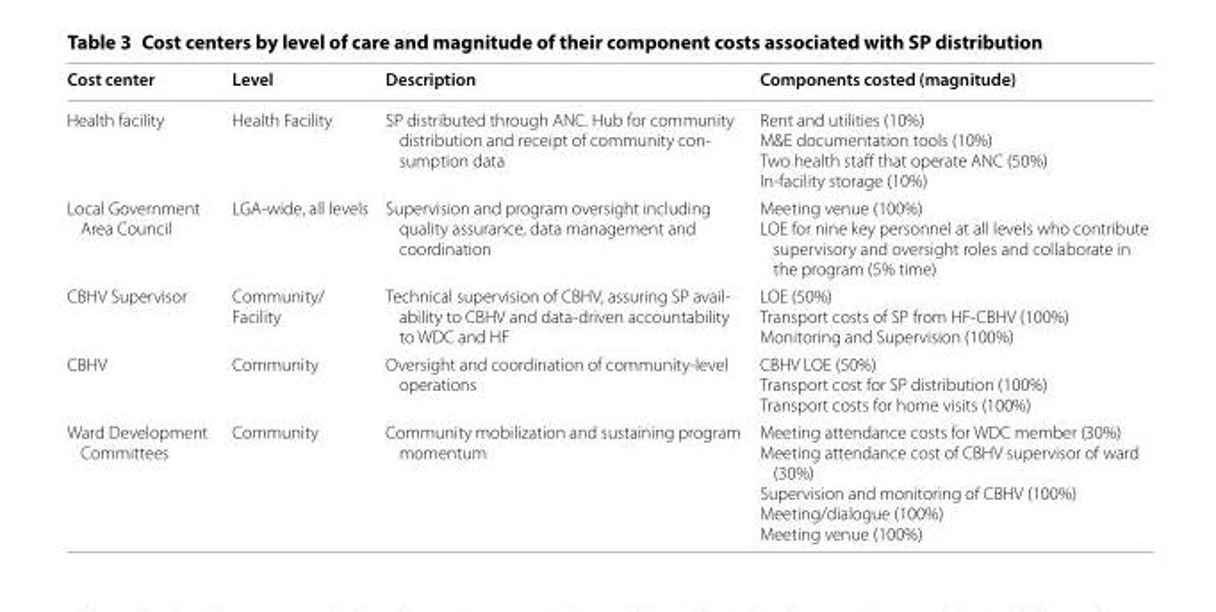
<table><thead><tr><td>Cost center</td><td>Level</td><td>Description</td><td>Components costed (magnitude)</td></tr></thead><tbody><tr><td>Health facility</td><td>Health Facility</td><td>SP distributed through ANC. Hub for community distribution and receipt of community con‑ sumption data</td><td>Rent and utilities (10%) M&amp;E documentation tools (10%) Two health staff that operate ANC (50%) In‑facility storage (10%)</td></tr><tr><td>Local Government Area Council</td><td>LGA‑wide, all levels</td><td>Supervision and program oversight including quality assurance, data management and coordination</td><td>Meeting venue (100%) LOE for nine key personnel at all levels who contribute supervisory and oversight roles and collaborate in the program (5% time)</td></tr><tr><td>CBHV Supervisor</td><td>Community/ Facility</td><td>Technical supervision of CBHV, assuring SP avail‑ ability to CBHV and data‑driven accountability to WDC and HF</td><td>LOE (50%) Transport costs of SP from HF‑CBHV (100%) Monitoring and Supervision (100%)</td></tr><tr><td>CBHV</td><td>Community</td><td>Oversight and coordination of community‑level operations</td><td>CBHV LOE (50%) Transport cost for SP distribution (100%) Transport costs for home visits (100%)</td></tr><tr><td>Ward Development Committees</td><td>Community</td><td>Community mobilization and sustaining program momentum</td><td>Meeting attendance costs for WDC member (30%) Meeting attendance cost of CBHV supervisor of ward (30%) Supervision and monitoring of CBHV (100%) Meeting/dialogue (100%) Meeting venue (100%)</td></tr></tbody></table>